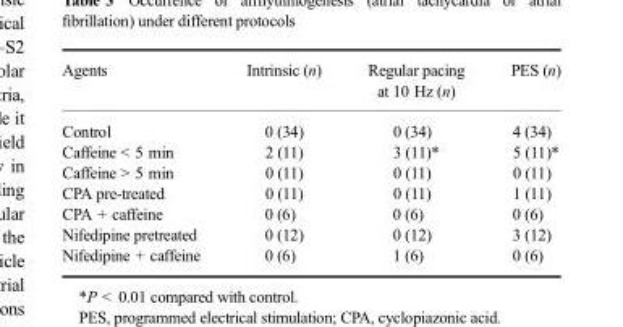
<table><thead><tr><td>Agents</td><td>Intrinsic (n)</td><td>Regular pacing at 10 Hz (n)</td><td>PES (n)</td></tr></thead><tbody><tr><td>Control</td><td>0 (34)</td><td>0 (34)</td><td>4 (34)</td></tr><tr><td>Caffeine &lt; 5 min</td><td>2 (11)</td><td>3 (11)*</td><td>5 (11)*</td></tr><tr><td>Caffeine &gt; 5 min</td><td>0 (11)</td><td>0 (11)</td><td>0 (11)</td></tr><tr><td>CPA pre-treated</td><td>0 (11)</td><td>0 (11)</td><td>1 (11)</td></tr><tr><td>CPA + caffeine</td><td>0 (6)</td><td>0 (6)</td><td>0 (6)</td></tr><tr><td>Nifedipine pretreated</td><td>0 (12)</td><td>0 (12)</td><td>3 (12)</td></tr><tr><td>Nifedipine + caffeine</td><td>0 (6)</td><td>1 (6)</td><td>0 (6)</td></tr></tbody></table>